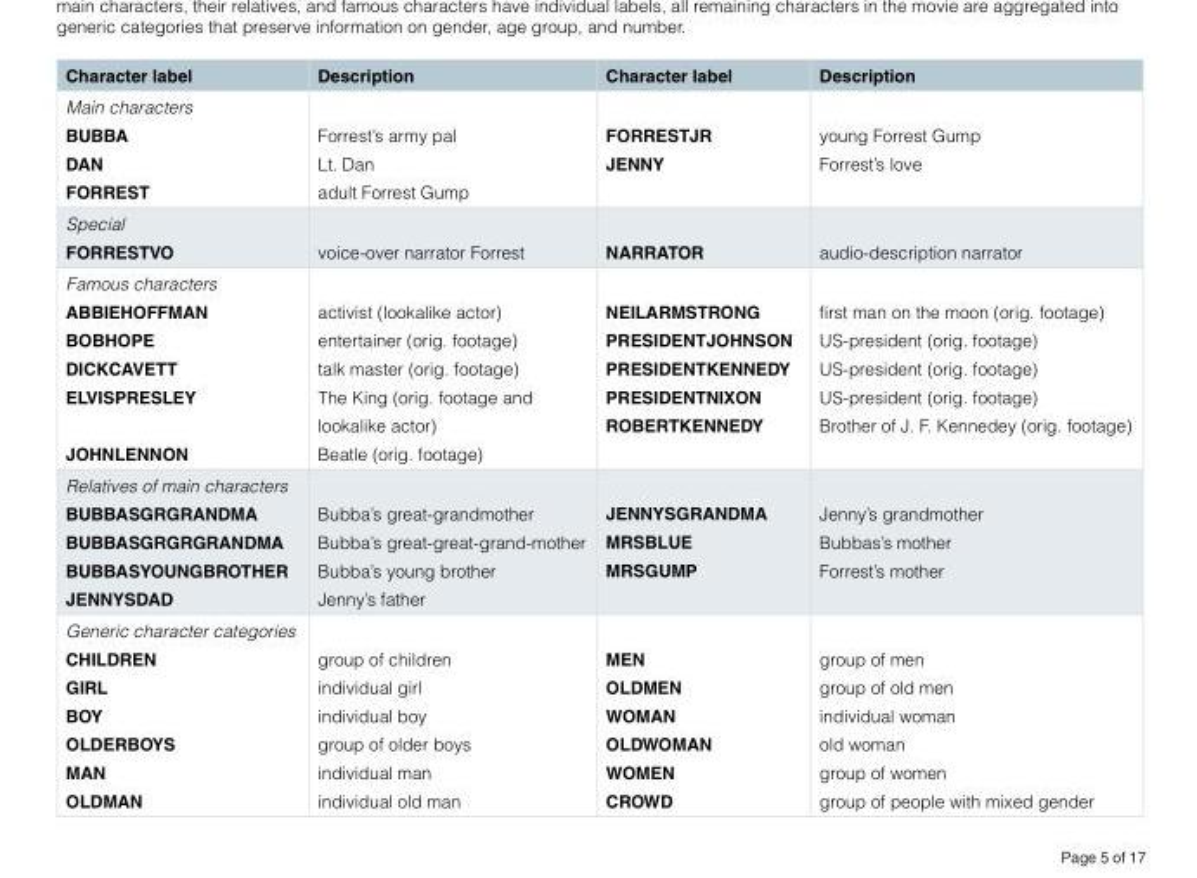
<table><thead><tr><td>Character label</td><td>Description</td><td>Character label</td><td>Description</td></tr></thead><tbody><tr><td>Main characters BUBBA DAN FORREST</td><td>Forrest’s army pal Lt. Dan adult Forrest Gump</td><td>FORRESTJR JENNY</td><td>young Forrest Gump Forrest’s love</td></tr><tr><td>Special FORRESTVO</td><td>voice-over narrator Forrest</td><td>NARRATOR</td><td>audio-description narrator</td></tr><tr><td>Famous characters ABBIEHOFFMAN BOBHOPE DICKCAVETT ELVISPRESLEY JOHNLENNON</td><td>activist (lookalike actor) entertainer (orig. footage) talk master (orig. footage) The King (orig. footage and lookalike actor) Beatle (orig. footage)</td><td>NEILARMSTRONG PRESIDENTJOHNSON PRESIDENTKENNEDY PRESIDENTNIXON ROBERTKENNEDY</td><td>first man on the moon (orig. footage) US-president (orig. footage) US-president (orig. footage) US-president (orig. footage) Brother of J. F. Kennedey (orig. footage)</td></tr><tr><td>Relatives of main characters BUBBASGRGRANDMA BUBBASGRGRGRANDMA BUBBASYOUNGBROTHER JENNYSDAD</td><td>Bubba’s great-grandmother Bubba’s great-great-grand-mother Bubba’s young brother Jenny’s father</td><td>JENNYSGRANDMA MRSBLUE MRSGUMP</td><td>Jenny’s grandmother Bubbas’s mother Forrest’s mother</td></tr><tr><td>Generic character categories CHILDREN GIRL BOY OLDERBOYS MAN OLDMAN</td><td>group of children individual girl individual boy group of older boys individual man individual old man</td><td>MEN OLDMEN WOMAN OLDWOMAN WOMEN CROWD</td><td>group of men group of old men individual woman old woman group of women group of people with mixed gender</td></tr></tbody></table>